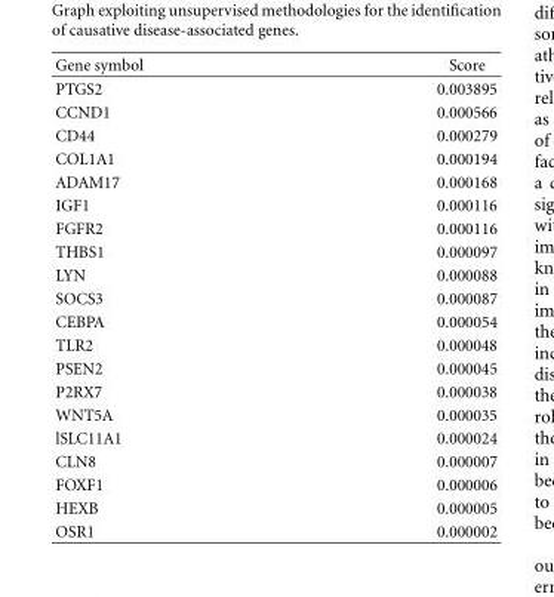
<table><thead><tr><td>Gene symbol</td><td>Score</td></tr></thead><tbody><tr><td>PTGS2</td><td>0.003895</td></tr><tr><td>CCND1</td><td>0.000566</td></tr><tr><td>CD44</td><td>0.000279</td></tr><tr><td>COL1A1</td><td>0.000194</td></tr><tr><td>ADAM17</td><td>0.000168</td></tr><tr><td>IGF1</td><td>0.000116</td></tr><tr><td>FGFR2</td><td>0.000116</td></tr><tr><td>THBS1</td><td>0.000097</td></tr><tr><td>LYN</td><td>0.000088</td></tr><tr><td>SOCS3</td><td>0.000087</td></tr><tr><td>CEBPA</td><td>0.000054</td></tr><tr><td>TLR2</td><td>0.000048</td></tr><tr><td>PSEN2</td><td>0.000045</td></tr><tr><td>P2RX7</td><td>0.000038</td></tr><tr><td>WNT5A</td><td>0.000035</td></tr><tr><td>lSLC11A1</td><td>0.000024</td></tr><tr><td>CLN8</td><td>0.000007</td></tr><tr><td>FOXF1</td><td>0.000006</td></tr><tr><td>HEXB</td><td>0.000005</td></tr><tr><td>OSR1</td><td>0.000002</td></tr></tbody></table>